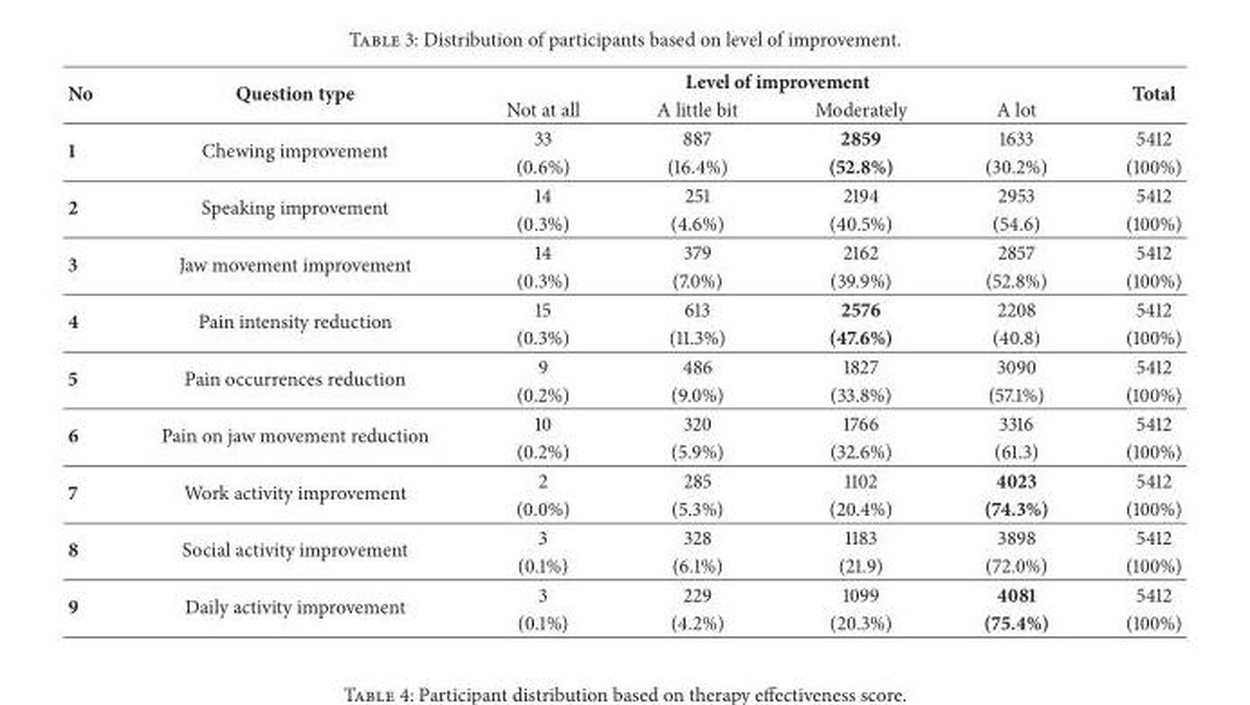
<table><thead><tr><td rowspan="2">No</td><td rowspan="2">Question type</td><td colspan="4">Level of improvement</td><td rowspan="2">Total</td></tr><tr><td>Not at all</td><td>A little bit</td><td>Moderately</td><td>A lot</td></tr></thead><tbody><tr><td rowspan="2">1</td><td rowspan="2">Chewing improvement</td><td>33</td><td>887</td><td>2859</td><td>1633</td><td>5412</td></tr><tr><td>(0.6%)</td><td>(16.4%)</td><td>(52.8%)</td><td>(30.2%)</td><td>(100%)</td></tr><tr><td rowspan="2">2</td><td rowspan="2">Speaking improvement</td><td>14</td><td>251</td><td>2194</td><td>2953</td><td>5412</td></tr><tr><td>(0.3%)</td><td>(4.6%)</td><td>(40.5%)</td><td>(54.6)</td><td>(100%)</td></tr><tr><td rowspan="2">3</td><td rowspan="2">Jaw movement improvement</td><td>14</td><td>379</td><td>2162</td><td>2857</td><td>5412</td></tr><tr><td>(0.3%)</td><td>(7.0%)</td><td>(39.9%)</td><td>(52.8%)</td><td>(100%)</td></tr><tr><td rowspan="2">4</td><td rowspan="2">Pain intensity reduction</td><td>15</td><td>613</td><td>2576</td><td>2208</td><td>5412</td></tr><tr><td>(0.3%)</td><td>(11.3%)</td><td>(47.6%)</td><td>(40.8)</td><td>(100%)</td></tr><tr><td rowspan="2">5</td><td rowspan="2">Pain occurrences reduction</td><td>9</td><td>486</td><td>1827</td><td>3090</td><td>5412</td></tr><tr><td>(0.2%)</td><td>(9.0%)</td><td>(33.8%)</td><td>(57.1%)</td><td>(100%)</td></tr><tr><td rowspan="2">6</td><td rowspan="2">Pain on jaw movement reduction</td><td>10</td><td>320</td><td>1766</td><td>3316</td><td>5412</td></tr><tr><td>(0.2%)</td><td>(5.9%)</td><td>(32.6%)</td><td>(61.3)</td><td>(100%)</td></tr><tr><td rowspan="2">7</td><td rowspan="2">Work activity improvement</td><td>2</td><td>285</td><td>1102</td><td>4023</td><td>5412</td></tr><tr><td>(0.0%)</td><td>(5.3%)</td><td>(20.4%)</td><td>(74.3%)</td><td>(100%)</td></tr><tr><td rowspan="2">8</td><td rowspan="2">Social activity improvement</td><td>3</td><td>328</td><td>1183</td><td>3898</td><td>5412</td></tr><tr><td>(0.1%)</td><td>(6.1%)</td><td>(21.9)</td><td>(72.0%)</td><td>(100%)</td></tr><tr><td rowspan="2">9</td><td rowspan="2">Daily activity improvement</td><td>3</td><td>229</td><td>1099</td><td>4081</td><td>5412</td></tr><tr><td>(0.1%)</td><td>(4.2%)</td><td>(20.3%)</td><td>(75.4%)</td><td>(100%)</td></tr></tbody></table>